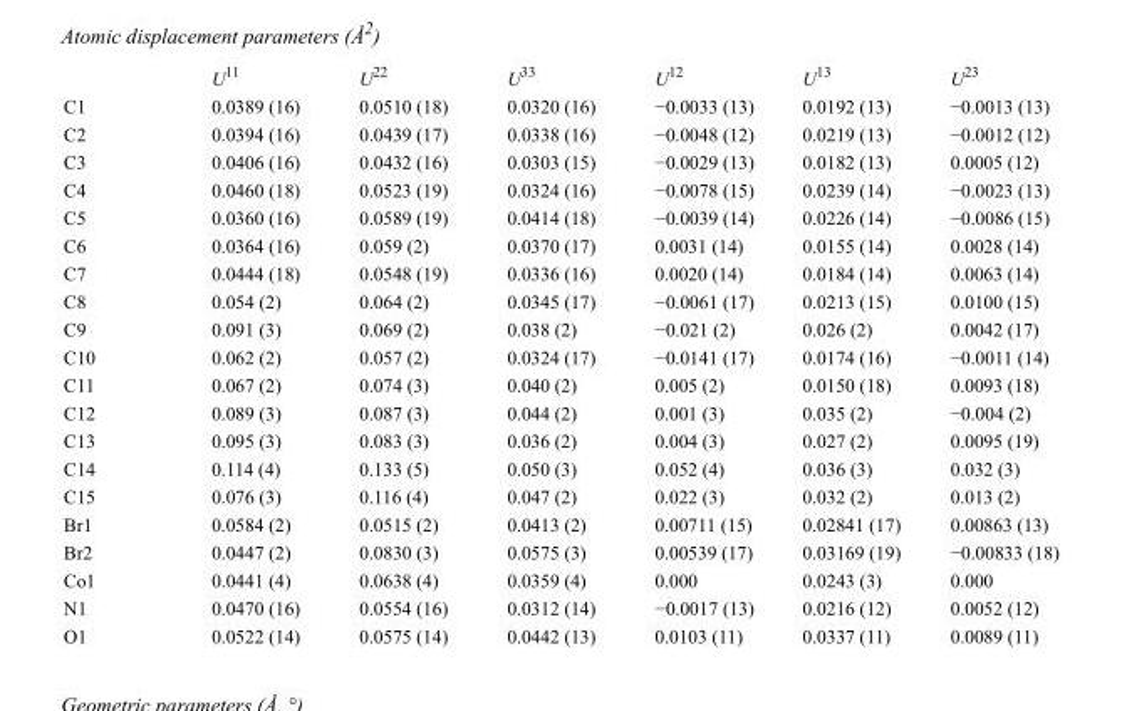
<table><thead><tr><td></td><td>U<sup>11</sup></td><td>U<sup>22</sup></td><td>U<sup>33</sup></td><td>U<sup>12</sup></td><td>U<sup>13</sup></td><td>U<sup>23</sup></td></tr></thead><tbody><tr><td>C1</td><td>0.0389 (16)</td><td>0.0510 (18)</td><td>0.0320 (16)</td><td>−0.0033 (13)</td><td>0.0192 (13)</td><td>−0.0013 (13)</td></tr><tr><td>C2</td><td>0.0394 (16)</td><td>0.0439 (17)</td><td>0.0338 (16)</td><td>−0.0048 (12)</td><td>0.0219 (13)</td><td>−0.0012 (12)</td></tr><tr><td>C3</td><td>0.0406 (16)</td><td>0.0432 (16)</td><td>0.0303 (15)</td><td>−0.0029 (13)</td><td>0.0182 (13)</td><td>0.0005 (12)</td></tr><tr><td>C4</td><td>0.0460 (18)</td><td>0.0523 (19)</td><td>0.0324 (16)</td><td>−0.0078 (15)</td><td>0.0239 (14)</td><td>−0.0023 (13)</td></tr><tr><td>C5</td><td>0.0360 (16)</td><td>0.0589 (19)</td><td>0.0414 (18)</td><td>−0.0039 (14)</td><td>0.0226 (14)</td><td>−0.0086 (15)</td></tr><tr><td>C6</td><td>0.0364 (16)</td><td>0.059 (2)</td><td>0.0370 (17)</td><td>0.0031 (14)</td><td>0.0155 (14)</td><td>0.0028 (14)</td></tr><tr><td>C7</td><td>0.0444 (18)</td><td>0.0548 (19)</td><td>0.0336 (16)</td><td>0.0020 (14)</td><td>0.0184 (14)</td><td>0.0063 (14)</td></tr><tr><td>C8</td><td>0.054 (2)</td><td>0.064 (2)</td><td>0.0345 (17)</td><td>−0.0061 (17)</td><td>0.0213 (15)</td><td>0.0100 (15)</td></tr><tr><td>C9</td><td>0.091 (3)</td><td>0.069 (2)</td><td>0.038 (2)</td><td>−0.021 (2)</td><td>0.026 (2)</td><td>0.0042 (17)</td></tr><tr><td>C10</td><td>0.062 (2)</td><td>0.057 (2)</td><td>0.0324 (17)</td><td>−0.0141 (17)</td><td>0.0174 (16)</td><td>−0.0011 (14)</td></tr><tr><td>C11</td><td>0.067 (2)</td><td>0.074 (3)</td><td>0.040 (2)</td><td>0.005 (2)</td><td>0.0150 (18)</td><td>0.0093 (18)</td></tr><tr><td>C12</td><td>0.089 (3)</td><td>0.087 (3)</td><td>0.044 (2)</td><td>0.001 (3)</td><td>0.035 (2)</td><td>−0.004 (2)</td></tr><tr><td>C13</td><td>0.095 (3)</td><td>0.083 (3)</td><td>0.036 (2)</td><td>0.004 (3)</td><td>0.027 (2)</td><td>0.0095 (19)</td></tr><tr><td>C14</td><td>0.114 (4)</td><td>0.133 (5)</td><td>0.050 (3)</td><td>0.052 (4)</td><td>0.036 (3)</td><td>0.032 (3)</td></tr><tr><td>C15</td><td>0.076 (3)</td><td>0.116 (4)</td><td>0.047 (2)</td><td>0.022 (3)</td><td>0.032 (2)</td><td>0.013 (2)</td></tr><tr><td>Br1</td><td>0.0584 (2)</td><td>0.0515 (2)</td><td>0.0413 (2)</td><td>0.00711 (15)</td><td>0.02841 (17)</td><td>0.00863 (13)</td></tr><tr><td>Br2</td><td>0.0447 (2)</td><td>0.0830 (3)</td><td>0.0575 (3)</td><td>0.00539 (17)</td><td>0.03169 (19)</td><td>−0.00833 (18)</td></tr><tr><td>Co1</td><td>0.0441 (4)</td><td>0.0638 (4)</td><td>0.0359 (4)</td><td>0.000</td><td>0.0243 (3)</td><td>0.000</td></tr><tr><td>N1</td><td>0.0470 (16)</td><td>0.0554 (16)</td><td>0.0312 (14)</td><td>−0.0017 (13)</td><td>0.0216 (12)</td><td>0.0052 (12)</td></tr><tr><td>O1</td><td>0.0522 (14)</td><td>0.0575 (14)</td><td>0.0442 (13)</td><td>0.0103 (11)</td><td>0.0337 (11)</td><td>0.0089 (11)</td></tr></tbody></table>